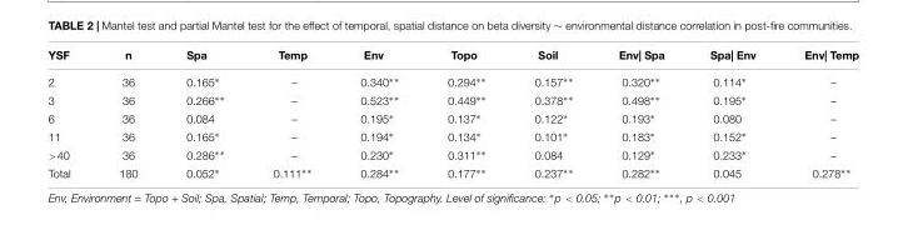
<table><thead><tr><td>YSF</td><td>n</td><td>Spa</td><td>Temp</td><td>Env</td><td>Topo</td><td>Soil</td><td>Env| Spa</td><td>Spa| Env</td><td>Env| Temp</td></tr></thead><tbody><tr><td>2</td><td>36</td><td>0.165∗</td><td>–</td><td>0.340∗∗</td><td>0.294∗∗</td><td>0.157∗∗</td><td>0.320∗∗</td><td>0.114∗</td><td>–</td></tr><tr><td>3</td><td>36</td><td>0.266∗∗</td><td>–</td><td>0.523∗∗</td><td>0.449∗∗</td><td>0.378∗∗</td><td>0.498∗∗</td><td>0.195∗</td><td>–</td></tr><tr><td>6</td><td>36</td><td>0.084</td><td>–</td><td>0.195∗</td><td>0.137∗</td><td>0.122∗</td><td>0.193∗</td><td>0.080</td><td>–</td></tr><tr><td>11</td><td>36</td><td>0.165∗</td><td>–</td><td>0.194∗</td><td>0.134∗</td><td>0.101∗</td><td>0.183∗</td><td>0.152∗</td><td>–</td></tr><tr><td>&gt;40</td><td>36</td><td>0.286∗∗</td><td>–</td><td>0.230∗</td><td>0.311∗∗</td><td>0.084</td><td>0.129∗</td><td>0.233∗</td><td>–</td></tr><tr><td>Total</td><td>180</td><td>0.052∗</td><td>0.111∗∗</td><td>0.284∗∗</td><td>0.177∗∗</td><td>0.237∗∗</td><td>0.282∗∗</td><td>0.045</td><td>0.278∗∗</td></tr></tbody></table>